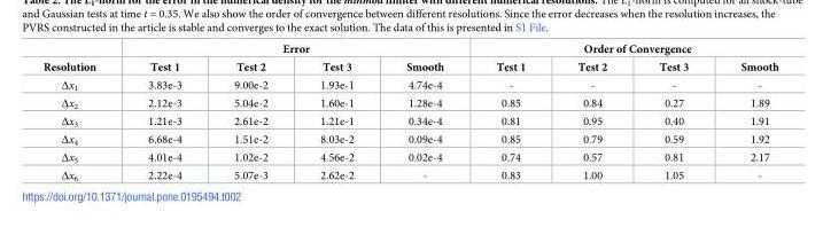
<table><thead><tr><td rowspan="2">Resolution</td><td colspan="4">Error</td><td colspan="4">Order of Convergence</td></tr><tr><td>Test 1</td><td>Test 2</td><td>Test 3</td><td>Smooth</td><td>Test 1</td><td>Test 2</td><td>Test 3</td><td>Smooth</td></tr></thead><tbody><tr><td>Δx<sub>1</sub></td><td>3.83e-3</td><td>9.00e-2</td><td>1.93e-1</td><td>4.74e-4</td><td>-</td><td>-</td><td>-</td><td>-</td></tr><tr><td>Δx<sub>2</sub></td><td>2.12e-3</td><td>5.04e-2</td><td>1.60e-1</td><td>1.28e-4</td><td>0.85</td><td>0.84</td><td>0.27</td><td>1.89</td></tr><tr><td>Δx<sub>3</sub></td><td>1.21e-3</td><td>2.61e-2</td><td>1.21e-1</td><td>0.34e-4</td><td>0.81</td><td>0.95</td><td>0.40</td><td>1.91</td></tr><tr><td>Δx<sub>4</sub></td><td>6.68e-4</td><td>1.51e-2</td><td>8.03e-2</td><td>0.09e-4</td><td>0.85</td><td>0.79</td><td>0.59</td><td>1.92</td></tr><tr><td>Δx<sub>5</sub></td><td>4.01e-4</td><td>1.02e-2</td><td>4.56e-2</td><td>0.02e-4</td><td>0.74</td><td>0.57</td><td>0.81</td><td>2.17</td></tr><tr><td>Δx<sub>6</sub></td><td>2.22e-4</td><td>5.07e-3</td><td>2.62e-2</td><td>-</td><td>0.83</td><td>1.00</td><td>1.05</td><td>-</td></tr></tbody></table>